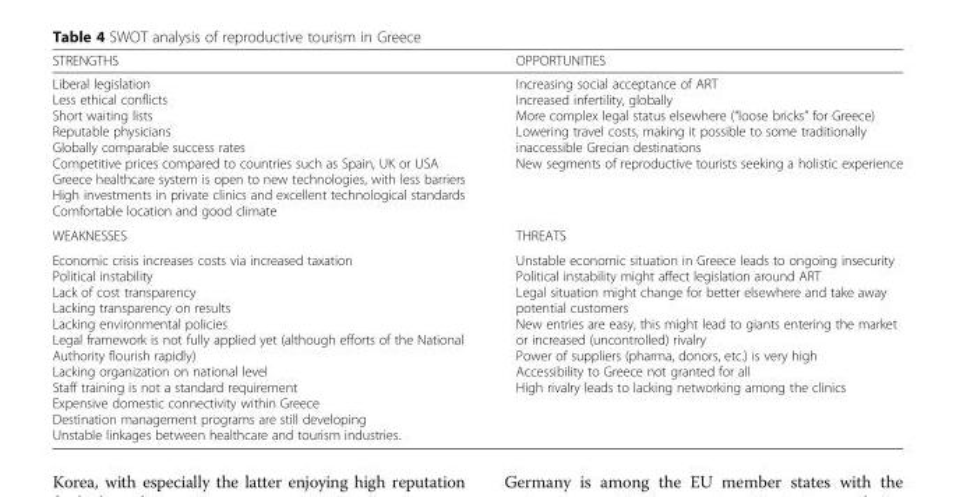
<table><thead><tr><td>STRENGTHS</td><td>OPPORTUNITIES</td></tr></thead><tbody><tr><td>Liberal legislation Less ethical conflicts Short waiting lists Reputable physicians Globally comparable success rates Competitive prices compared to countries such as Spain, UK or USA Greece healthcare system is open to new technologies, with less barriers High investments in private clinics and excellent technological standards Comfortable location and good climate</td><td>Increasing social acceptance of ART Increased infertility, globally More complex legal status elsewhere (“loose bricks” for Greece) Lowering travel costs, making it possible to some traditionally inaccessible Grecian destinations New segments of reproductive tourists seeking a holistic experience</td></tr><tr><td>WEAKNESSES</td><td>THREATS</td></tr><tr><td>Economic crisis increases costs via increased taxation Political instability Lack of cost transparency Lacking transparency on results Lacking environmental policies Legal framework is not fully applied yet (although efforts of the National Authority flourish rapidly) Lacking organization on national level Staff training is not a standard requirement Expensive domestic connectivity within Greece Destination management programs are still developing Unstable linkages between healthcare and tourism industries.</td><td>Unstable economic situation in Greece leads to ongoing insecurity Political instability might affect legislation around ART Legal situation might change for better elsewhere and take away potential customers New entries are easy, this might lead to giants entering the market or increased (uncontrolled) rivalry Power of suppliers (pharma, donors, etc.) is very high Accessibility to Greece not granted for all High rivalry leads to lacking networking among the clinics</td></tr></tbody></table>